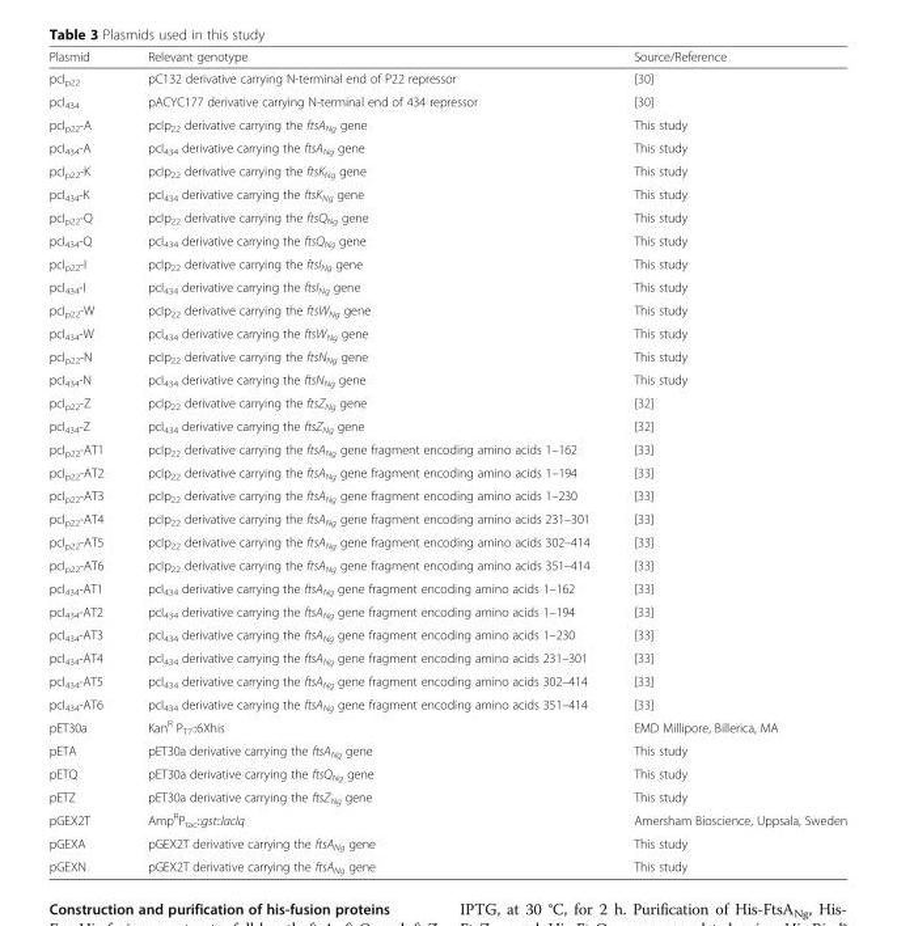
<table><thead><tr><td>Plasmid</td><td>Relevant genotype</td><td>Source/Reference</td></tr></thead><tbody><tr><td>pcI<sub>p22</sub></td><td>pC132 derivative carrying N-terminal end of P22 repressor</td><td>[30]</td></tr><tr><td>pcI<sub>434</sub></td><td>pACYC177 derivative carrying N-terminal end of 434 repressor</td><td>[30]</td></tr><tr><td>pcI<sub>p22</sub>-A</td><td>pcIp<sub>22</sub> derivative carrying the ftsA<sub>Ng</sub> gene</td><td>This study</td></tr><tr><td>pcI<sub>434</sub>-A</td><td>pcI<sub>434</sub> derivative carrying the ftsA<sub>Ng</sub> gene</td><td>This study</td></tr><tr><td>pcI<sub>p22</sub>-K</td><td>pcIp<sub>22</sub> derivative carrying the ftsK<sub>Ng</sub> gene</td><td>This study</td></tr><tr><td>pcI<sub>434</sub>-K</td><td>pcI<sub>434</sub> derivative carrying the ftsK<sub>Ng</sub> gene</td><td>This study</td></tr><tr><td>pcI<sub>p22</sub>-Q</td><td>pcIp<sub>22</sub> derivative carrying the ftsQ<sub>Ng</sub> gene</td><td>This study</td></tr><tr><td>pcI<sub>434</sub>-Q</td><td>pcI<sub>434</sub> derivative carrying the ftsQ<sub>Ng</sub> gene</td><td>This study</td></tr><tr><td>pcI<sub>p22</sub>-I</td><td>pcIp<sub>22</sub> derivative carrying the ftsI<sub>Ng</sub> gene</td><td>This study</td></tr><tr><td>pcI<sub>434</sub>-I</td><td>pcI<sub>434</sub> derivative carrying the ftsI<sub>Ng</sub> gene</td><td>This study</td></tr><tr><td>pcI<sub>p22</sub>-W</td><td>pcIp<sub>22</sub> derivative carrying the ftsW<sub>Ng</sub> gene</td><td>This study</td></tr><tr><td>pcI<sub>434</sub>-W</td><td>pcI<sub>434</sub> derivative carrying the ftsW<sub>Ng</sub> gene</td><td>This study</td></tr><tr><td>pcI<sub>p22</sub>-N</td><td>pcIp<sub>22</sub> derivative carrying the ftsN<sub>Ng</sub> gene</td><td>This study</td></tr><tr><td>pcI<sub>434</sub>-N</td><td>pcI<sub>434</sub> derivative carrying the ftsN<sub>Ng</sub> gene</td><td>This study</td></tr><tr><td>pcI<sub>p22</sub>-Z</td><td>pcIp<sub>22</sub> derivative carrying the ftsZ<sub>Ng</sub> gene</td><td>[32]</td></tr><tr><td>pcI<sub>434</sub>-Z</td><td>pcI<sub>434</sub> derivative carrying the ftsZ<sub>Ng</sub> gene</td><td>[32]</td></tr><tr><td>pcI<sub>p22</sub>-AT1</td><td>pcIp<sub>22</sub> derivative carrying the ftsA<sub>Ng</sub> gene fragment encoding amino acids 1–162</td><td>[33]</td></tr><tr><td>pcI<sub>p22</sub>-AT2</td><td>pcIp<sub>22</sub> derivative carrying the ftsA<sub>Ng</sub> gene fragment encoding amino acids 1–194</td><td>[33]</td></tr><tr><td>pcI<sub>p22</sub>-AT3</td><td>pcIp<sub>22</sub> derivative carrying the ftsA<sub>Ng</sub> gene fragment encoding amino acids 1–230</td><td>[33]</td></tr><tr><td>pcI<sub>p22</sub>-AT4</td><td>pcIp<sub>22</sub> derivative carrying the ftsA<sub>Ng</sub> gene fragment encoding amino acids 231–301</td><td>[33]</td></tr><tr><td>pcI<sub>p22</sub>-AT5</td><td>pcIp<sub>22</sub> derivative carrying the ftsA<sub>Ng</sub> gene fragment encoding amino acids 302–414</td><td>[33]</td></tr><tr><td>pcI<sub>p22</sub>-AT6</td><td>pcIp<sub>22</sub> derivative carrying the ftsA<sub>Ng</sub> gene fragment encoding amino acids 351–414</td><td>[33]</td></tr><tr><td>pcI<sub>434</sub>-AT1</td><td>pcI<sub>434</sub> derivative carrying the ftsA<sub>Ng</sub> gene fragment encoding amino acids 1–162</td><td>[33]</td></tr><tr><td>pcI<sub>434</sub>-AT2</td><td>pcI<sub>434</sub> derivative carrying the ftsA<sub>Ng</sub> gene fragment encoding amino acids 1–194</td><td>[33]</td></tr><tr><td>pcI<sub>434</sub>-AT3</td><td>pcI<sub>434</sub> derivative carrying the ftsA<sub>Ng</sub> gene fragment encoding amino acids 1–230</td><td>[33]</td></tr><tr><td>pcI<sub>434</sub>-AT4</td><td>pcI<sub>434</sub> derivative carrying the ftsA<sub>Ng</sub> gene fragment encoding amino acids 231–301</td><td>[33]</td></tr><tr><td>pcI<sub>434</sub>-AT5</td><td>pcI<sub>434</sub> derivative carrying the ftsA<sub>Ng</sub> gene fragment encoding amino acids 302–414</td><td>[33]</td></tr><tr><td>pcI<sub>434</sub>-AT6</td><td>pcI<sub>434</sub> derivative carrying the ftsA<sub>Ng</sub> gene fragment encoding amino acids 351–414</td><td>[33]</td></tr><tr><td>pET30a</td><td>Kan<sup>R</sup> P<sub>T7</sub>::6Xhis</td><td>EMD Millipore, Billerica, MA</td></tr><tr><td>pETA</td><td>pET30a derivative carrying the ftsA<sub>Ng</sub> gene</td><td>This study</td></tr><tr><td>pETQ</td><td>pET30a derivative carrying the ftsQ<sub>Ng</sub> gene</td><td>This study</td></tr><tr><td>pETZ</td><td>pET30a derivative carrying the ftsZ<sub>Ng</sub> gene</td><td>This study</td></tr><tr><td>pGEX2T</td><td>Amp<sup>R</sup>P<sub>tac</sub>::gst::lacIq</td><td>Amersham Bioscience, Uppsala, Sweden</td></tr><tr><td>pGEXA</td><td>pGEX2T derivative carrying the ftsA<sub>Ng</sub> gene</td><td>This study</td></tr><tr><td>pGEXN</td><td>pGEX2T derivative carrying the ftsA<sub>Ng</sub> gene</td><td>This study</td></tr></tbody></table>